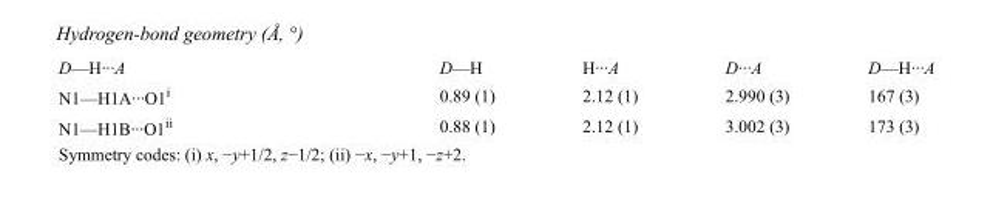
<table><tbody><tr><td>D—H···A</td><td>D—H</td><td>H···A</td><td>D···A</td><td>D—H···A</td></tr><tr><td>N1—H1A···O1<sup>i</sup></td><td>0.89 (1)</td><td>2.12 (1)</td><td>2.990 (3)</td><td>167 (3)</td></tr><tr><td>N1—H1B···O1<sup>ii</sup></td><td>0.88 (1)</td><td>2.12 (1)</td><td>3.002 (3)</td><td>173 (3)</td></tr></tbody></table>